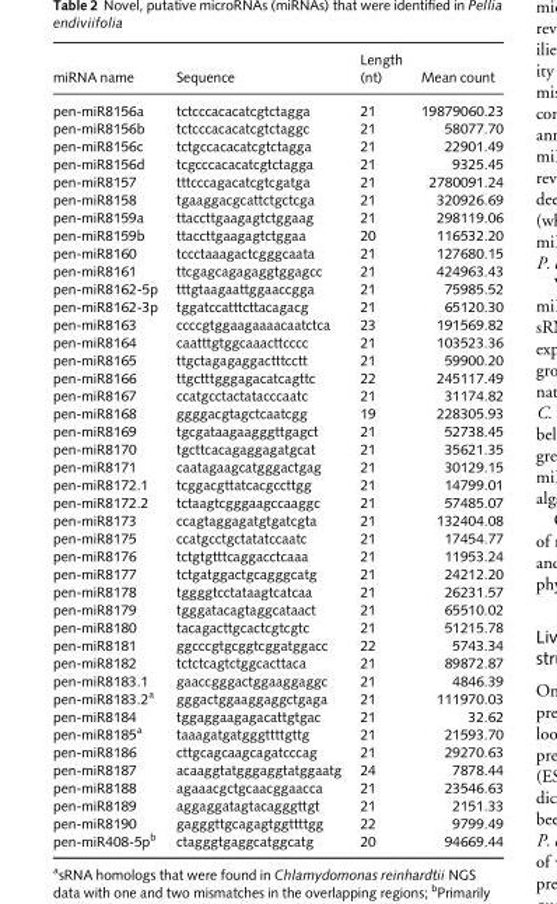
<table><thead><tr><td>miRNA name</td><td>Sequence</td><td>Length (nt)</td><td>Mean count</td></tr></thead><tbody><tr><td>pen-miR8156a</td><td>tctcccacacatcgtctagga</td><td>21</td><td>19879060.23</td></tr><tr><td>pen-miR8156b</td><td>tctcccacacatcgtctaggc</td><td>21</td><td>58077.70</td></tr><tr><td>pen-miR8156c</td><td>tctgccacacatcgtctagga</td><td>21</td><td>22901.49</td></tr><tr><td>pen-miR8156d</td><td>tcgcccacacatcgtctagga</td><td>21</td><td>9325.45</td></tr><tr><td>pen-miR8157</td><td>tttcccagacatcgtcgatga</td><td>21</td><td>2780091.24</td></tr><tr><td>pen-miR8158</td><td>tgaaggacgcattctgctcga</td><td>21</td><td>320926.69</td></tr><tr><td>pen-miR8159a</td><td>ttaccttgaagagtctggaag</td><td>21</td><td>298119.06</td></tr><tr><td>pen-miR8159b</td><td>ttaccttgaagagtctggaa</td><td>20</td><td>116532.20</td></tr><tr><td>pen-miR8160</td><td>tccctaaagactcgggcaata</td><td>21</td><td>127680.15</td></tr><tr><td>pen-miR8161</td><td>ttcgagcagagaggtggagcc</td><td>21</td><td>424963.43</td></tr><tr><td>pen-miR8162-5p</td><td>tttgtaagaattggaaccgga</td><td>21</td><td>75985.52</td></tr><tr><td>pen-miR8162-3p</td><td>tggatccatttcttacagacg</td><td>21</td><td>65120.30</td></tr><tr><td>pen-miR8163</td><td>ccccgtggaagaaaacaatctca</td><td>23</td><td>191569.82</td></tr><tr><td>pen-miR8164</td><td>caatttgtggcaaacttcccc</td><td>21</td><td>103523.36</td></tr><tr><td>pen-miR8165</td><td>ttgctagagaggactttcctt</td><td>21</td><td>59900.20</td></tr><tr><td>pen-miR8166</td><td>ttgctttgggagacatcagttc</td><td>22</td><td>245117.49</td></tr><tr><td>pen-miR8167</td><td>ccatgcctactatacccaatc</td><td>21</td><td>31174.82</td></tr><tr><td>pen-miR8168</td><td>ggggacgtagctcaatcgg</td><td>19</td><td>228305.93</td></tr><tr><td>pen-miR8169</td><td>tgcgataagaagggttgagct</td><td>21</td><td>52738.45</td></tr><tr><td>pen-miR8170</td><td>tgcttcacagaggagatgcat</td><td>21</td><td>35621.35</td></tr><tr><td>pen-miR8171</td><td>caatagaagcatgggactgag</td><td>21</td><td>30129.15</td></tr><tr><td>pen-miR8172.1</td><td>tcggacgttatcacgccttgg</td><td>21</td><td>14799.01</td></tr><tr><td>pen-miR8172.2</td><td>tctaagtcgggaagccaaggc</td><td>21</td><td>57485.07</td></tr><tr><td>pen-miR8173</td><td>ccagtaggagatgtgatcgta</td><td>21</td><td>132404.08</td></tr><tr><td>pen-miR8175</td><td>ccatgcctgctatatccaatc</td><td>21</td><td>17454.77</td></tr><tr><td>pen-miR8176</td><td>tctgtgtttcaggacctcaaa</td><td>21</td><td>11953.24</td></tr><tr><td>pen-miR8177</td><td>tctgatggactgcagggcatg</td><td>21</td><td>24212.20</td></tr><tr><td>pen-miR8178</td><td>tggggtcctataagtcatcaa</td><td>21</td><td>26231.57</td></tr><tr><td>pen-miR8179</td><td>tgggatacagtaggcataact</td><td>21</td><td>65510.02</td></tr><tr><td>pen-miR8180</td><td>tacagacttgcactcgtcgtc</td><td>21</td><td>51215.78</td></tr><tr><td>pen-miR8181</td><td>ggcccgtgcggtcggatggacc</td><td>22</td><td>5743.34</td></tr><tr><td>pen-miR8182</td><td>tctctcagtctggcacttaca</td><td>21</td><td>89872.87</td></tr><tr><td>pen-miR8183.1</td><td>gaaccgggactggaaggaggc</td><td>21</td><td>4846.39</td></tr><tr><td>pen-miR8183.2<sup>a</sup></td><td>gggactggaaggaggctgaga</td><td>21</td><td>111970.03</td></tr><tr><td>pen-miR8184</td><td>tggaggaagagacattgtgac</td><td>21</td><td>32.62</td></tr><tr><td>pen-miR8185<sup>a</sup></td><td>taaagatgatgggttttgttg</td><td>21</td><td>21593.70</td></tr><tr><td>pen-miR8186</td><td>cttgcagcaagcagatcccag</td><td>21</td><td>29270.63</td></tr><tr><td>pen-miR8187</td><td>acaaggtatgggaggtatggaatg</td><td>24</td><td>7878.44</td></tr><tr><td>pen-miR8188</td><td>agaaacgctgcaacggaacca</td><td>21</td><td>23546.63</td></tr><tr><td>pen-miR8189</td><td>aggaggatagtacagggttgt</td><td>21</td><td>2151.33</td></tr><tr><td>pen-miR8190</td><td>gagggttgcagagtggttttgg</td><td>22</td><td>9799.49</td></tr><tr><td>pen-miR408-5p<sup>b</sup></td><td>ctagggtgaggcatggcatg</td><td>20</td><td>94669.44</td></tr></tbody></table>